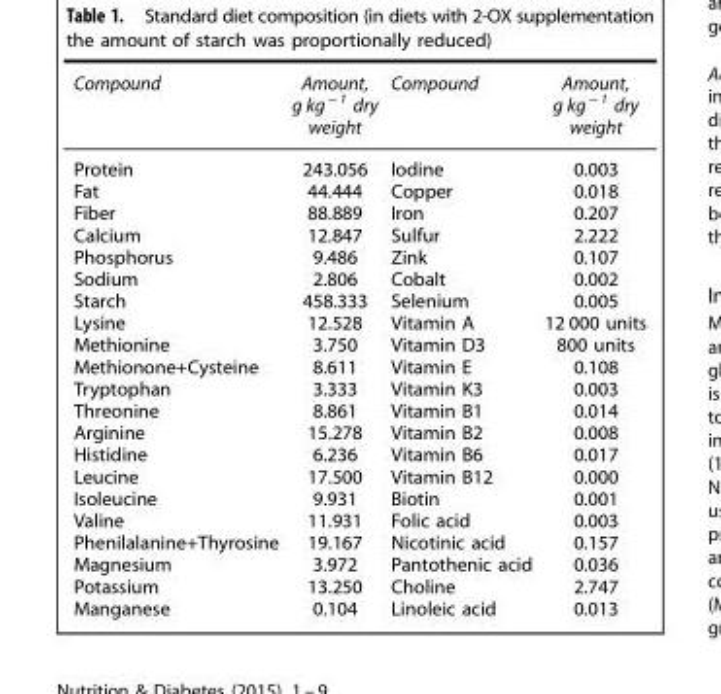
<table><thead><tr><td>Compound</td><td>Amount, g kg <sup>− 1</sup> dry weight</td><td>Compound</td><td>Amount, g kg <sup>− 1</sup> dry weight</td></tr></thead><tbody><tr><td>Protein</td><td>243.056</td><td>Iodine</td><td>0.003</td></tr><tr><td>Fat</td><td>44.444</td><td>Copper</td><td>0.018</td></tr><tr><td>Fiber</td><td>88.889</td><td>Iron</td><td>0.207</td></tr><tr><td>Calcium</td><td>12.847</td><td>Sulfur</td><td>2.222</td></tr><tr><td>Phosphorus</td><td>9.486</td><td>Zink</td><td>0.107</td></tr><tr><td>Sodium</td><td>2.806</td><td>Cobalt</td><td>0.002</td></tr><tr><td>Starch</td><td>458.333</td><td>Selenium</td><td>0.005</td></tr><tr><td>Lysine</td><td>12.528</td><td>Vitamin A</td><td>12 000 units</td></tr><tr><td>Methionine</td><td>3.750</td><td>Vitamin D3</td><td>800 units</td></tr><tr><td>Methionone+Cysteine</td><td>8.611</td><td>Vitamin E</td><td>0.108</td></tr><tr><td>Tryptophan</td><td>3.333</td><td>Vitamin K3</td><td>0.003</td></tr><tr><td>Threonine</td><td>8.861</td><td>Vitamin B1</td><td>0.014</td></tr><tr><td>Arginine</td><td>15.278</td><td>Vitamin B2</td><td>0.008</td></tr><tr><td>Histidine</td><td>6.236</td><td>Vitamin B6</td><td>0.017</td></tr><tr><td>Leucine</td><td>17.500</td><td>Vitamin B12</td><td>0.000</td></tr><tr><td>Isoleucine</td><td>9.931</td><td>Biotin</td><td>0.001</td></tr><tr><td>Valine</td><td>11.931</td><td>Folic acid</td><td>0.003</td></tr><tr><td>Phenilalanine+Thyrosine</td><td>19.167</td><td>Nicotinic acid</td><td>0.157</td></tr><tr><td>Magnesium</td><td>3.972</td><td>Pantothenic acid</td><td>0.036</td></tr><tr><td>Potassium</td><td>13.250</td><td>Choline</td><td>2.747</td></tr><tr><td>Manganese</td><td>0.104</td><td>Linoleic acid</td><td>0.013</td></tr></tbody></table>